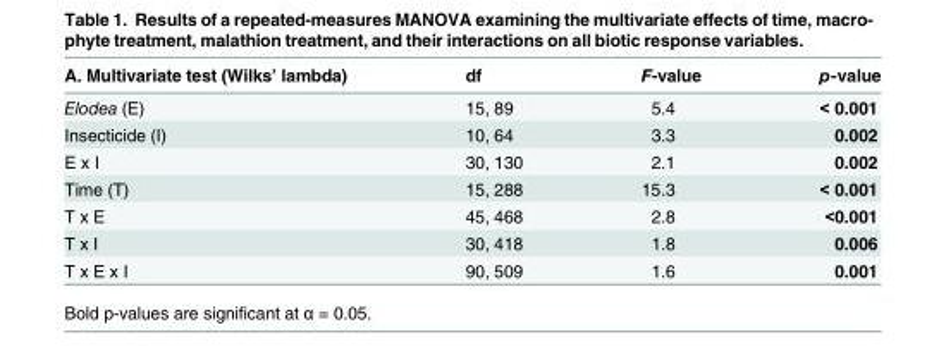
<table><thead><tr><td>A. Multivariate test (Wilks’ lambda)</td><td>df</td><td>F-value</td><td>p-value</td></tr></thead><tbody><tr><td>Elodea (E)</td><td>15, 89</td><td>5.4</td><td>&lt; 0.001</td></tr><tr><td>Insecticide (I)</td><td>10, 64</td><td>3.3</td><td>0.002</td></tr><tr><td>E x I</td><td>30, 130</td><td>2.1</td><td>0.002</td></tr><tr><td>Time (T)</td><td>15, 288</td><td>15.3</td><td>&lt; 0.001</td></tr><tr><td>T x E</td><td>45, 468</td><td>2.8</td><td>&lt;0.001</td></tr><tr><td>T x I</td><td>30, 418</td><td>1.8</td><td>0.006</td></tr><tr><td>T x E x I</td><td>90, 509</td><td>1.6</td><td>0.001</td></tr></tbody></table>